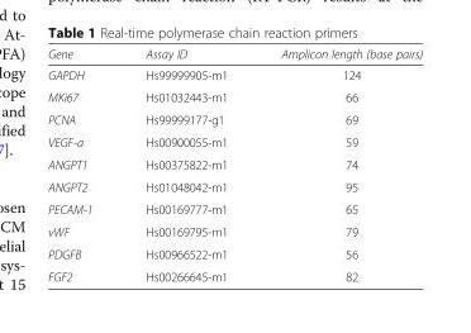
<table><thead><tr><td>Gene</td><td>Assay ID</td><td>Amplicon length (base pairs)</td></tr></thead><tbody><tr><td>GAPDH</td><td>Hs99999905-m1</td><td>124</td></tr><tr><td>MKi67</td><td>Hs01032443-m1</td><td>66</td></tr><tr><td>PCNA</td><td>Hs99999177-g1</td><td>69</td></tr><tr><td>VEGF-a</td><td>Hs00900055-m1</td><td>59</td></tr><tr><td>ANGPT1</td><td>Hs00375822-m1</td><td>74</td></tr><tr><td>ANGPT2</td><td>Hs01048042-m1</td><td>95</td></tr><tr><td>PECAM-1</td><td>Hs00169777-m1</td><td>65</td></tr><tr><td>vWF</td><td>Hs00169795-m1</td><td>79</td></tr><tr><td>PDGFB</td><td>Hs00966522-m1</td><td>56</td></tr><tr><td>FGF2</td><td>Hs00266645-m1</td><td>82</td></tr></tbody></table>